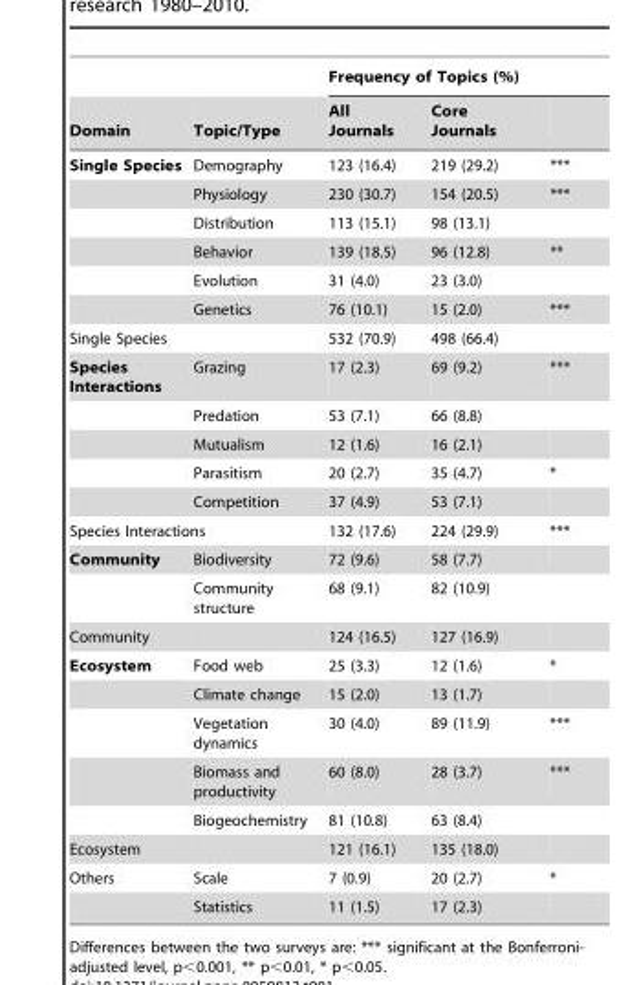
<table><thead><tr><td rowspan="2">Domain</td><td rowspan="2">Topic/Type</td><td colspan="3">Frequency of Topics (%)</td></tr><tr><td>All Journals</td><td>Core Journals</td><td></td></tr></thead><tbody><tr><td rowspan="6">Single Species</td><td>Demography</td><td>123 (16.4)</td><td>219 (29.2)</td><td>***</td></tr><tr><td>Physiology</td><td>230 (30.7)</td><td>154 (20.5)</td><td>***</td></tr><tr><td>Distribution</td><td>113 (15.1)</td><td>98 (13.1)</td><td></td></tr><tr><td>Behavior</td><td>139 (18.5)</td><td>96 (12.8)</td><td>**</td></tr><tr><td>Evolution</td><td>31 (4.0)</td><td>23 (3.0)</td><td></td></tr><tr><td>Genetics</td><td>76 (10.1)</td><td>15 (2.0)</td><td>***</td></tr><tr><td>Single Species</td><td></td><td>532 (70.9)</td><td>498 (66.4)</td><td></td></tr><tr><td rowspan="5">Species Interactions</td><td>Grazing</td><td>17 (2.3)</td><td>69 (9.2)</td><td>***</td></tr><tr><td>Predation</td><td>53 (7.1)</td><td>66 (8.8)</td><td></td></tr><tr><td>Mutualism</td><td>12 (1.6)</td><td>16 (2.1)</td><td></td></tr><tr><td>Parasitism</td><td>20 (2.7)</td><td>35 (4.7)</td><td>*</td></tr><tr><td>Competition</td><td>37 (4.9)</td><td>53 (7.1)</td><td></td></tr><tr><td colspan="2">Species Interactions</td><td>132 (17.6)</td><td>224 (29.9)</td><td>***</td></tr><tr><td rowspan="2">Community</td><td>Biodiversity</td><td>72 (9.6)</td><td>58 (7.7)</td><td></td></tr><tr><td>Community structure</td><td>68 (9.1)</td><td>82 (10.9)</td><td></td></tr><tr><td>Community</td><td></td><td>124 (16.5)</td><td>127 (16.9)</td><td></td></tr><tr><td rowspan="5">Ecosystem</td><td>Food web</td><td>25 (3.3)</td><td>12 (1.6)</td><td>*</td></tr><tr><td>Climate change</td><td>15 (2.0)</td><td>13 (1.7)</td><td></td></tr><tr><td>Vegetation dynamics</td><td>30 (4.0)</td><td>89 (11.9)</td><td>***</td></tr><tr><td>Biomass and productivity</td><td>60 (8.0)</td><td>28 (3.7)</td><td>***</td></tr><tr><td>Biogeochemistry</td><td>81 (10.8)</td><td>63 (8.4)</td><td></td></tr><tr><td>Ecosystem</td><td></td><td>121 (16.1)</td><td>135 (18.0)</td><td></td></tr><tr><td rowspan="2">Others</td><td>Scale</td><td>7 (0.9)</td><td>20 (2.7)</td><td>*</td></tr><tr><td>Statistics</td><td>11 (1.5)</td><td>17 (2.3)</td><td></td></tr></tbody></table>